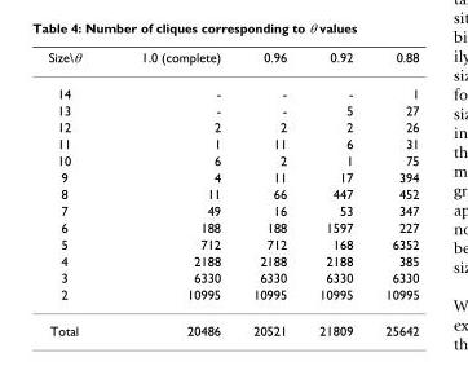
<table><thead><tr><td>Size\\u03b8</td><td>1.0 (complete)</td><td>0.96</td><td>0.92</td><td>0.88</td></tr></thead><tbody><tr><td>14</td><td>-</td><td>-</td><td>-</td><td>1</td></tr><tr><td>13</td><td>-</td><td>-</td><td>5</td><td>27</td></tr><tr><td>12</td><td>2</td><td>2</td><td>2</td><td>26</td></tr><tr><td>11</td><td>1</td><td>11</td><td>6</td><td>31</td></tr><tr><td>10</td><td>6</td><td>2</td><td>1</td><td>75</td></tr><tr><td>9</td><td>4</td><td>11</td><td>17</td><td>394</td></tr><tr><td>8</td><td>11</td><td>66</td><td>447</td><td>452</td></tr><tr><td>7</td><td>49</td><td>16</td><td>53</td><td>347</td></tr><tr><td>6</td><td>188</td><td>188</td><td>1597</td><td>227</td></tr><tr><td>5</td><td>712</td><td>712</td><td>168</td><td>6352</td></tr><tr><td>4</td><td>2188</td><td>2188</td><td>2188</td><td>385</td></tr><tr><td>3</td><td>6330</td><td>6330</td><td>6330</td><td>6330</td></tr><tr><td>2</td><td>10995</td><td>10995</td><td>10995</td><td>10995</td></tr><tr><td>Total</td><td>20486</td><td>20521</td><td>21809</td><td>25642</td></tr></tbody></table>